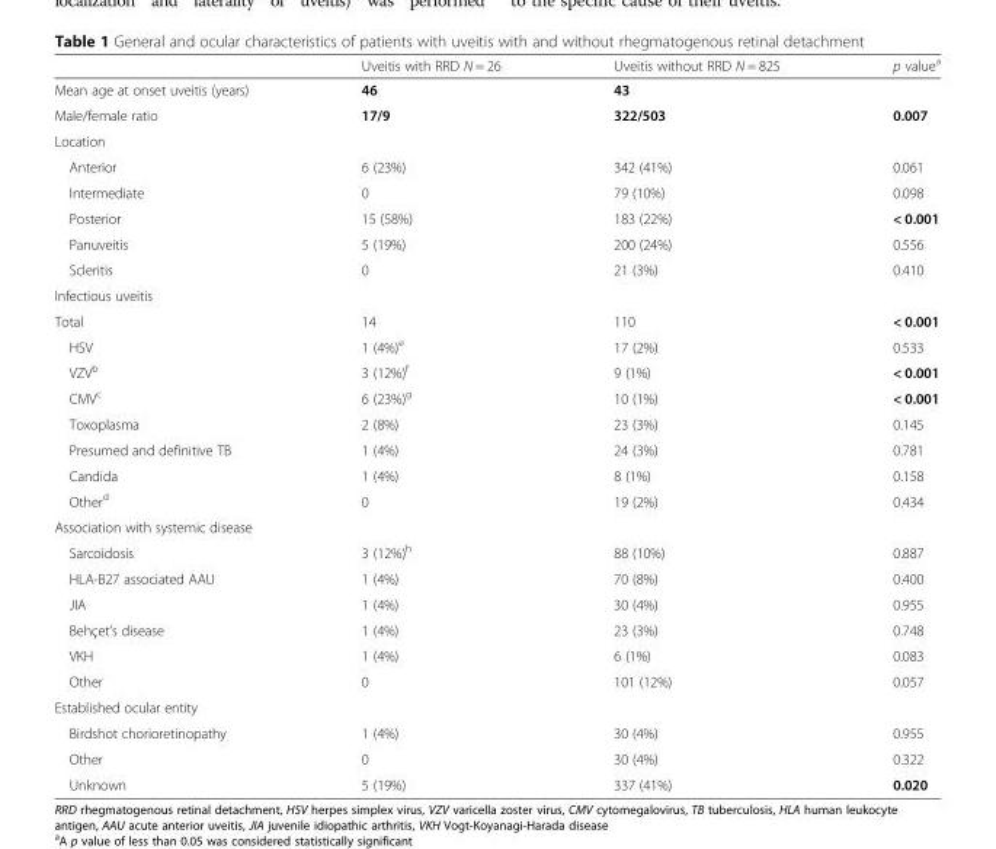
<table><thead><tr><td></td><td>Uveitis with RRD N = 26</td><td>Uveitis without RRD N = 825</td><td>p value<sup>a</sup></td></tr></thead><tbody><tr><td>Mean age at onset uveitis (years)</td><td>46</td><td>43</td><td></td></tr><tr><td>Male/female ratio</td><td>17/9</td><td>322/503</td><td>0.007</td></tr><tr><td colspan="4">Location</td></tr><tr><td>Anterior</td><td>6 (23%)</td><td>342 (41%)</td><td>0.061</td></tr><tr><td>Intermediate</td><td>0</td><td>79 (10%)</td><td>0.098</td></tr><tr><td>Posterior</td><td>15 (58%)</td><td>183 (22%)</td><td>&lt; 0.001</td></tr><tr><td>Panuveitis</td><td>5 (19%)</td><td>200 (24%)</td><td>0.556</td></tr><tr><td>Scleritis</td><td>0</td><td>21 (3%)</td><td>0.410</td></tr><tr><td colspan="4">Infectious uveitis</td></tr><tr><td>Total</td><td>14</td><td>110</td><td>&lt; 0.001</td></tr><tr><td>HSV</td><td>1 (4%)<sup>e</sup></td><td>17 (2%)</td><td>0.533</td></tr><tr><td>VZV<sup>b</sup></td><td>3 (12%)<sup>f</sup></td><td>9 (1%)</td><td>&lt; 0.001</td></tr><tr><td>CMV<sup>c</sup></td><td>6 (23%)<sup>g</sup></td><td>10 (1%)</td><td>&lt; 0.001</td></tr><tr><td>Toxoplasma</td><td>2 (8%)</td><td>23 (3%)</td><td>0.145</td></tr><tr><td>Presumed and definitive TB</td><td>1 (4%)</td><td>24 (3%)</td><td>0.781</td></tr><tr><td>Candida</td><td>1 (4%)</td><td>8 (1%)</td><td>0.158</td></tr><tr><td>Other<sup>d</sup></td><td>0</td><td>19 (2%)</td><td>0.434</td></tr><tr><td colspan="4">Association with systemic disease</td></tr><tr><td>Sarcoidosis</td><td>3 (12%)<sup>h</sup></td><td>88 (10%)</td><td>0.887</td></tr><tr><td>HLA-B27 associated AAU</td><td>1 (4%)</td><td>70 (8%)</td><td>0.400</td></tr><tr><td>JIA</td><td>1 (4%)</td><td>30 (4%)</td><td>0.955</td></tr><tr><td>Behçet’s disease</td><td>1 (4%)</td><td>23 (3%)</td><td>0.748</td></tr><tr><td>VKH</td><td>1 (4%)</td><td>6 (1%)</td><td>0.083</td></tr><tr><td>Other</td><td>0</td><td>101 (12%)</td><td>0.057</td></tr><tr><td colspan="4">Established ocular entity</td></tr><tr><td>Birdshot chorioretinopathy</td><td>1 (4%)</td><td>30 (4%)</td><td>0.955</td></tr><tr><td>Other</td><td>0</td><td>30 (4%)</td><td>0.322</td></tr><tr><td>Unknown</td><td>5 (19%)</td><td>337 (41%)</td><td>0.020</td></tr></tbody></table>